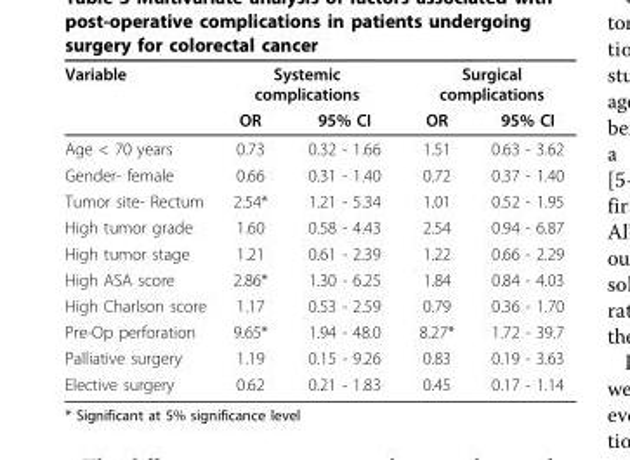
<table><thead><tr><td rowspan="2">Variable</td><td colspan="2">Systemic complications</td><td colspan="2">Surgical complications</td></tr><tr><td>OR</td><td>95% CI</td><td>OR</td><td>95% CI</td></tr></thead><tbody><tr><td>Age &lt; 70 years</td><td>0.73</td><td>0.32 - 1.66</td><td>1.51</td><td>0.63 - 3.62</td></tr><tr><td>Gender- female</td><td>0.66</td><td>0.31 - 1.40</td><td>0.72</td><td>0.37 - 1.40</td></tr><tr><td>Tumor site- Rectum</td><td>2.54*</td><td>1.21 - 5.34</td><td>1.01</td><td>0.52 - 1.95</td></tr><tr><td>High tumor grade</td><td>1.60</td><td>0.58 - 4.43</td><td>2.54</td><td>0.94 - 6.87</td></tr><tr><td>High tumor stage</td><td>1.21</td><td>0.61 - 2.39</td><td>1.22</td><td>0.66 - 2.29</td></tr><tr><td>High ASA score</td><td>2.86*</td><td>1.30 - 6.25</td><td>1.84</td><td>0.84 - 4.03</td></tr><tr><td>High Charlson score</td><td>1.17</td><td>0.53 - 2.59</td><td>0.79</td><td>0.36 - 1.70</td></tr><tr><td>Pre-Op perforation</td><td>9.65*</td><td>1.94 - 48.0</td><td>8.27*</td><td>1.72 - 39.7</td></tr><tr><td>Palliative surgery</td><td>1.19</td><td>0.15 - 9.26</td><td>0.83</td><td>0.19 - 3.63</td></tr><tr><td>Elective surgery</td><td>0.62</td><td>0.21 - 1.83</td><td>0.45</td><td>0.17 - 1.14</td></tr></tbody></table>